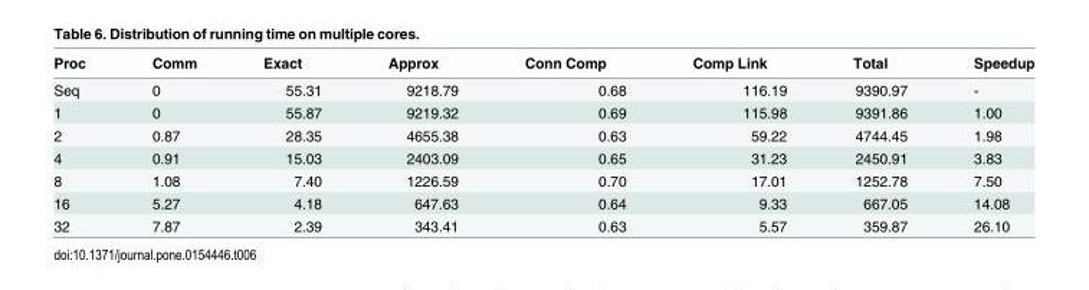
<table><thead><tr><td>Proc</td><td>Comm</td><td>Exact</td><td>Approx</td><td>Conn Comp</td><td>Comp Link</td><td>Total</td><td>Speedup</td></tr></thead><tbody><tr><td>Seq</td><td>0</td><td>55.31</td><td>9218.79</td><td>0.68</td><td>116.19</td><td>9390.97</td><td>-</td></tr><tr><td>1</td><td>0</td><td>55.87</td><td>9219.32</td><td>0.69</td><td>115.98</td><td>9391.86</td><td>1.00</td></tr><tr><td>2</td><td>0.87</td><td>28.35</td><td>4655.38</td><td>0.63</td><td>59.22</td><td>4744.45</td><td>1.98</td></tr><tr><td>4</td><td>0.91</td><td>15.03</td><td>2403.09</td><td>0.65</td><td>31.23</td><td>2450.91</td><td>3.83</td></tr><tr><td>8</td><td>1.08</td><td>7.40</td><td>1226.59</td><td>0.70</td><td>17.01</td><td>1252.78</td><td>7.50</td></tr><tr><td>16</td><td>5.27</td><td>4.18</td><td>647.63</td><td>0.64</td><td>9.33</td><td>667.05</td><td>14.08</td></tr><tr><td>32</td><td>7.87</td><td>2.39</td><td>343.41</td><td>0.63</td><td>5.57</td><td>359.87</td><td>26.10</td></tr></tbody></table>